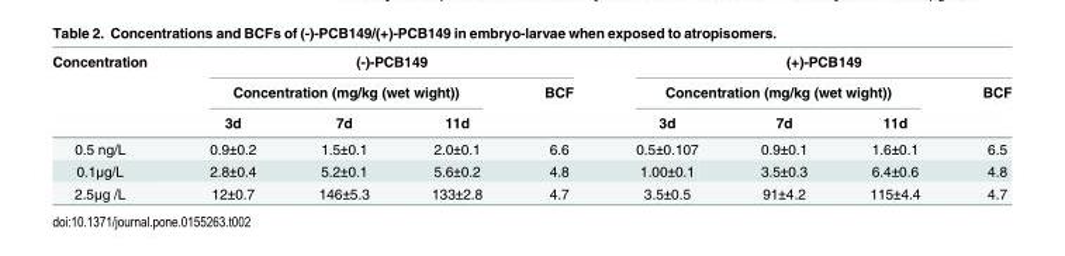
<table><thead><tr><td rowspan="3">Concentration</td><td colspan="4">(-)-PCB149</td><td colspan="4">(+)-PCB149</td></tr><tr><td colspan="3">Concentration (mg/kg (wet wight))</td><td rowspan="2">BCF</td><td colspan="3">Concentration (mg/kg (wet wight))</td><td rowspan="2">BCF</td></tr><tr><td>3d</td><td>7d</td><td>11d</td><td>3d</td><td>7d</td><td>11d</td></tr></thead><tbody><tr><td>0.5 ng/L</td><td>0.9±0.2</td><td>1.5±0.1</td><td>2.0±0.1</td><td>6.6</td><td>0.5±0.107</td><td>0.9±0.1</td><td>1.6±0.1</td><td>6.5</td></tr><tr><td>0.1μg/L</td><td>2.8±0.4</td><td>5.2±0.1</td><td>5.6±0.2</td><td>4.8</td><td>1.00±0.1</td><td>3.5±0.3</td><td>6.4±0.6</td><td>4.8</td></tr><tr><td>2.5μg /L</td><td>12±0.7</td><td>146±5.3</td><td>133±2.8</td><td>4.7</td><td>3.5±0.5</td><td>91±4.2</td><td>115±4.4</td><td>4.7</td></tr></tbody></table>